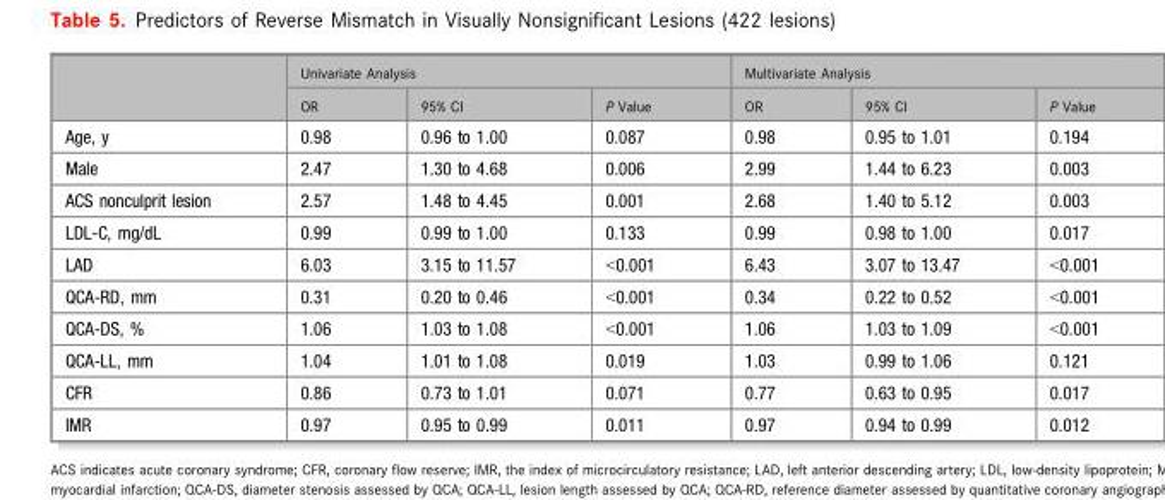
<table><thead><tr><td rowspan="2"></td><td colspan="3">Univariate Analysis</td><td colspan="3">Multivariate Analysis</td></tr><tr><td>OR</td><td>95% CI</td><td>P Value</td><td>OR</td><td>95% CI</td><td>P Value</td></tr></thead><tbody><tr><td>Age, y</td><td>0.98</td><td>0.96 to 1.00</td><td>0.087</td><td>0.98</td><td>0.95 to 1.01</td><td>0.194</td></tr><tr><td>Male</td><td>2.47</td><td>1.30 to 4.68</td><td>0.006</td><td>2.99</td><td>1.44 to 6.23</td><td>0.003</td></tr><tr><td>ACS nonculprit lesion</td><td>2.57</td><td>1.48 to 4.45</td><td>0.001</td><td>2.68</td><td>1.40 to 5.12</td><td>0.003</td></tr><tr><td>LDL-C, mg/dL</td><td>0.99</td><td>0.99 to 1.00</td><td>0.133</td><td>0.99</td><td>0.98 to 1.00</td><td>0.017</td></tr><tr><td>LAD</td><td>6.03</td><td>3.15 to 11.57</td><td>&lt;0.001</td><td>6.43</td><td>3.07 to 13.47</td><td>&lt;0.001</td></tr><tr><td>QCA-RD, mm</td><td>0.31</td><td>0.20 to 0.46</td><td>&lt;0.001</td><td>0.34</td><td>0.22 to 0.52</td><td>&lt;0.001</td></tr><tr><td>QCA-DS, %</td><td>1.06</td><td>1.03 to 1.08</td><td>&lt;0.001</td><td>1.06</td><td>1.03 to 1.09</td><td>&lt;0.001</td></tr><tr><td>QCA-LL, mm</td><td>1.04</td><td>1.01 to 1.08</td><td>0.019</td><td>1.03</td><td>0.99 to 1.06</td><td>0.121</td></tr><tr><td>CFR</td><td>0.86</td><td>0.73 to 1.01</td><td>0.071</td><td>0.77</td><td>0.63 to 0.95</td><td>0.017</td></tr><tr><td>IMR</td><td>0.97</td><td>0.95 to 0.99</td><td>0.011</td><td>0.97</td><td>0.94 to 0.99</td><td>0.012</td></tr></tbody></table>